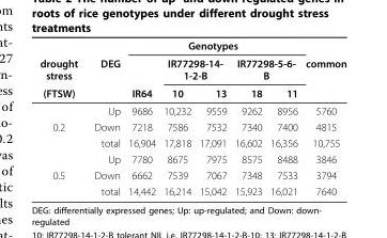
<table><thead><tr><td rowspan="3">drought stress (FTSW)</td><td rowspan="3">DEG</td><td colspan="5">Genotypes</td><td rowspan="3">common</td></tr><tr><td rowspan="2">IR64</td><td colspan="2">IR77298-14- 1-2-B</td><td colspan="2">IR77298-5-6- B</td></tr><tr><td>10</td><td>13</td><td>18</td><td>11</td></tr></thead><tbody><tr><td></td><td>Up</td><td>9686</td><td>10,232</td><td>9559</td><td>9262</td><td>8956</td><td>5760</td></tr><tr><td rowspan="3">0.2</td><td>Down</td><td>7218</td><td>7586</td><td>7532</td><td>7340</td><td>7400</td><td>4815</td></tr><tr><td>total</td><td>16,904</td><td>17,818</td><td>17,091</td><td>16,602</td><td>16,356</td><td>10,755</td></tr><tr><td>Up</td><td>7780</td><td>8675</td><td>7975</td><td>8575</td><td>8488</td><td>3846</td></tr><tr><td rowspan="2">0.5</td><td>Down</td><td>6662</td><td>7539</td><td>7067</td><td>7348</td><td>7533</td><td>3794</td></tr><tr><td>total</td><td>14,442</td><td>16,214</td><td>15,042</td><td>15,923</td><td>16,021</td><td>7640</td></tr></tbody></table>